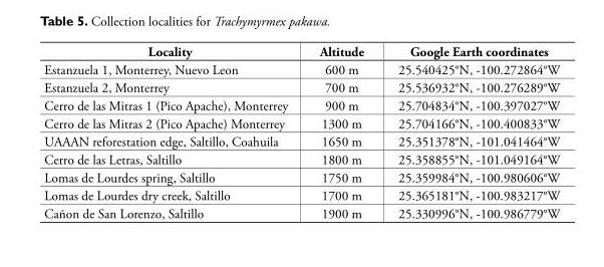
<table><thead><tr><td>Locality</td><td>Altitude</td><td>Google Earth coordinates</td></tr></thead><tbody><tr><td>Estanzuela 1, Monterrey, Nuevo Leon</td><td>600 m</td><td>25.540425°N, -100.272864°W</td></tr><tr><td>Estanzuela 2, Monterrey</td><td>700 m</td><td>25.536932°N, -100.276289°W</td></tr><tr><td>Cerro de las Mitras 1 (Pico Apache), Monterrey</td><td>900 m</td><td>25.704834°N, -100.397027°W</td></tr><tr><td>Cerro de las Mitras 2 (Pico Apache) Monterrey</td><td>1300 m</td><td>25.704166°N, -100.400833°W</td></tr><tr><td>UAAAN reforestation edge, Saltillo, Coahuila</td><td>1650 m</td><td>25.351378°N, -101.041464°W</td></tr><tr><td>Cerro de las Letras, Saltillo</td><td>1800 m</td><td>25.358855°N, -101.049164°W</td></tr><tr><td>Lomas de Lourdes spring, Saltillo</td><td>1750 m</td><td>25.359984°N, -100.980606°W</td></tr><tr><td>Lomas de Lourdes dry creek, Saltillo</td><td>1700 m</td><td>25.365181°N, -100.983217°W</td></tr><tr><td>Cañon de San Lorenzo, Saltillo</td><td>1900 m</td><td>25.330996°N, -100.986779°W</td></tr></tbody></table>